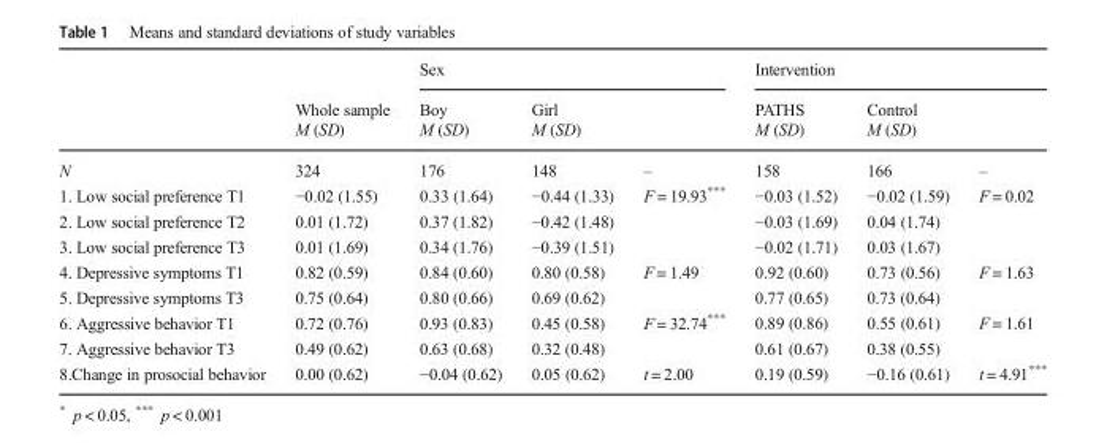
<table><thead><tr><td rowspan="3"></td><td rowspan="3">Whole sample M (SD)</td><td colspan="3">Sex</td><td colspan="3">Intervention</td></tr><tr><td rowspan="2">Boy M (SD)</td><td rowspan="2">Girl M (SD)</td><td rowspan="2"></td><td rowspan="2">PATHS M (SD)</td><td rowspan="2">Control M (SD)</td><td rowspan="2"></td></tr><tr></tr></thead><tbody><tr><td>N</td><td>324</td><td>176</td><td>148</td><td>–</td><td>158</td><td>166</td><td>–</td></tr><tr><td>1. Low social preference T1</td><td>−0.02 (1.55)</td><td>0.33 (1.64)</td><td>−0.44 (1.33)</td><td>F = 19.93***</td><td>−0.03 (1.52)</td><td>−0.02 (1.59)</td><td>F = 0.02</td></tr><tr><td>2. Low social preference T2</td><td>0.01 (1.72)</td><td>0.37 (1.82)</td><td>−0.42 (1.48)</td><td></td><td>−0.03 (1.69)</td><td>0.04 (1.74)</td><td></td></tr><tr><td>3. Low social preference T3</td><td>0.01 (1.69)</td><td>0.34 (1.76)</td><td>−0.39 (1.51)</td><td></td><td>−0.02 (1.71)</td><td>0.03 (1.67)</td><td></td></tr><tr><td>4. Depressive symptoms T1</td><td>0.82 (0.59)</td><td>0.84 (0.60)</td><td>0.80 (0.58)</td><td>F = 1.49</td><td>0.92 (0.60)</td><td>0.73 (0.56)</td><td>F = 1.63</td></tr><tr><td>5. Depressive symptoms T3</td><td>0.75 (0.64)</td><td>0.80 (0.66)</td><td>0.69 (0.62)</td><td></td><td>0.77 (0.65)</td><td>0.73 (0.64)</td><td></td></tr><tr><td>6. Aggressive behavior T1</td><td>0.72 (0.76)</td><td>0.93 (0.83)</td><td>0.45 (0.58)</td><td>F = 32.74***</td><td>0.89 (0.86)</td><td>0.55 (0.61)</td><td>F = 1.61</td></tr><tr><td>7. Aggressive behavior T3</td><td>0.49 (0.62)</td><td>0.63 (0.68)</td><td>0.32 (0.48)</td><td></td><td>0.61 (0.67)</td><td>0.38 (0.55)</td><td></td></tr><tr><td>8.Change in prosocial behavior</td><td>0.00 (0.62)</td><td>−0.04 (0.62)</td><td>0.05 (0.62)</td><td>t = 2.00</td><td>0.19 (0.59)</td><td>−0.16 (0.61)</td><td>t = 4.91***</td></tr></tbody></table>